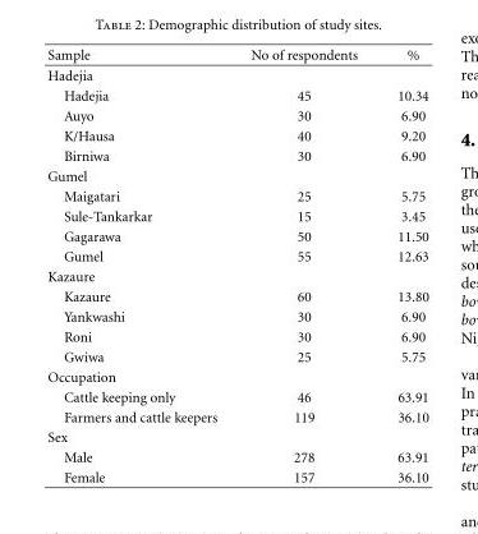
<table><thead><tr><td>Sample</td><td>No of respondents</td><td>%</td></tr></thead><tbody><tr><td colspan="3">Hadejia</td></tr><tr><td>Hadejia</td><td>45</td><td>10.34</td></tr><tr><td>Auyo</td><td>30</td><td>6.90</td></tr><tr><td>K/Hausa</td><td>40</td><td>9.20</td></tr><tr><td>Birniwa</td><td>30</td><td>6.90</td></tr><tr><td colspan="3">Gumel</td></tr><tr><td>Maigatari</td><td>25</td><td>5.75</td></tr><tr><td>Sule-Tankarkar</td><td>15</td><td>3.45</td></tr><tr><td>Gagarawa</td><td>50</td><td>11.50</td></tr><tr><td>Gumel</td><td>55</td><td>12.63</td></tr><tr><td colspan="3">Kazaure</td></tr><tr><td>Kazaure</td><td>60</td><td>13.80</td></tr><tr><td>Yankwashi</td><td>30</td><td>6.90</td></tr><tr><td>Roni</td><td>30</td><td>6.90</td></tr><tr><td>Gwiwa</td><td>25</td><td>5.75</td></tr><tr><td colspan="3">Occupation</td></tr><tr><td>Cattle keeping only</td><td>46</td><td>63.91</td></tr><tr><td>Farmers and cattle keepers</td><td>119</td><td>36.10</td></tr><tr><td colspan="3">Sex</td></tr><tr><td>Male</td><td>278</td><td>63.91</td></tr><tr><td>Female</td><td>157</td><td>36.10</td></tr></tbody></table>